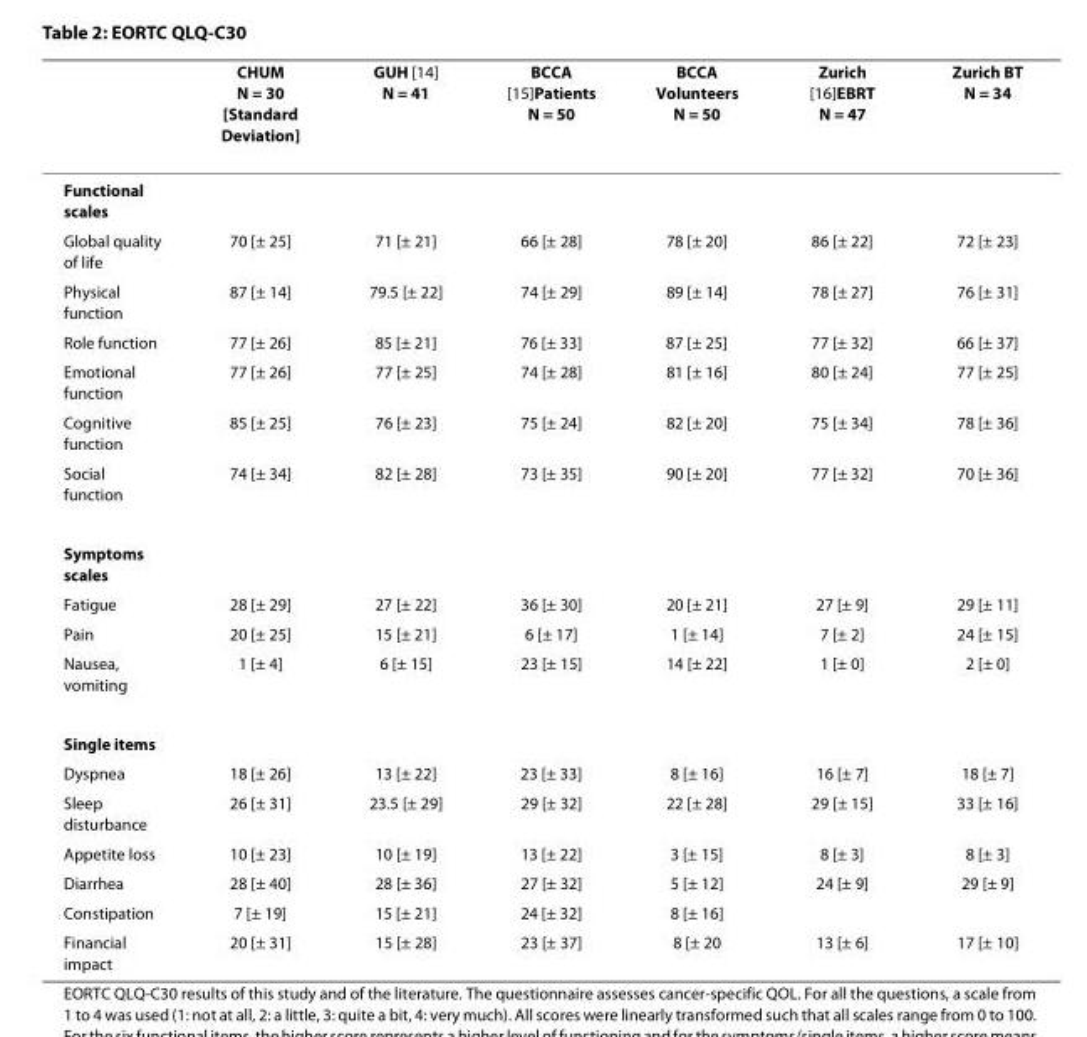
<table><thead><tr><td></td><td>CHUM N = 30 [Standard Deviation]</td><td>GUH [14] N = 41</td><td>BCCA [15]Patients N = 50</td><td>BCCA Volunteers N = 50</td><td>Zurich [16]EBRT N = 47</td><td>Zurich BT N = 34</td></tr></thead><tbody><tr><td colspan="7">Functional scales</td></tr><tr><td>Global quality of life</td><td>70 [± 25]</td><td>71 [± 21]</td><td>66 [± 28]</td><td>78 [± 20]</td><td>86 [± 22]</td><td>72 [± 23]</td></tr><tr><td>Physical function</td><td>87 [± 14]</td><td>79.5 [± 22]</td><td>74 [± 29]</td><td>89 [± 14]</td><td>78 [± 27]</td><td>76 [± 31]</td></tr><tr><td>Role function</td><td>77 [± 26]</td><td>85 [± 21]</td><td>76 [± 33]</td><td>87 [± 25]</td><td>77 [± 32]</td><td>66 [± 37]</td></tr><tr><td>Emotional function</td><td>77 [± 26]</td><td>77 [± 25]</td><td>74 [± 28]</td><td>81 [± 16]</td><td>80 [± 24]</td><td>77 [± 25]</td></tr><tr><td>Cognitive function</td><td>85 [± 25]</td><td>76 [± 23]</td><td>75 [± 24]</td><td>82 [± 20]</td><td>75 [± 34]</td><td>78 [± 36]</td></tr><tr><td>Social function</td><td>74 [± 34]</td><td>82 [± 28]</td><td>73 [± 35]</td><td>90 [± 20]</td><td>77 [± 32]</td><td>70 [± 36]</td></tr><tr><td colspan="7">Symptoms scales</td></tr><tr><td>Fatigue</td><td>28 [± 29]</td><td>27 [± 22]</td><td>36 [± 30]</td><td>20 [± 21]</td><td>27 [± 9]</td><td>29 [± 11]</td></tr><tr><td>Pain</td><td>20 [± 25]</td><td>15 [± 21]</td><td>6 [± 17]</td><td>1 [± 14]</td><td>7 [± 2]</td><td>24 [± 15]</td></tr><tr><td>Nausea, vomiting</td><td>1 [± 4]</td><td>6 [± 15]</td><td>23 [± 15]</td><td>14 [± 22]</td><td>1 [± 0]</td><td>2 [± 0]</td></tr><tr><td colspan="7">Single items</td></tr><tr><td>Dyspnea</td><td>18 [± 26]</td><td>13 [± 22]</td><td>23 [± 33]</td><td>8 [± 16]</td><td>16 [± 7]</td><td>18 [± 7]</td></tr><tr><td>Sleep disturbance</td><td>26 [± 31]</td><td>23.5 [± 29]</td><td>29 [± 32]</td><td>22 [± 28]</td><td>29 [± 15]</td><td>33 [± 16]</td></tr><tr><td>Appetite loss</td><td>10 [± 23]</td><td>10 [± 19]</td><td>13 [± 22]</td><td>3 [± 15]</td><td>8 [± 3]</td><td>8 [± 3]</td></tr><tr><td>Diarrhea</td><td>28 [± 40]</td><td>28 [± 36]</td><td>27 [± 32]</td><td>5 [± 12]</td><td>24 [± 9]</td><td>29 [± 9]</td></tr><tr><td>Constipation</td><td>7 [± 19]</td><td>15 [± 21]</td><td>24 [± 32]</td><td>8 [± 16]</td><td></td><td></td></tr><tr><td>Financial impact</td><td>20 [± 31]</td><td>15 [± 28]</td><td>23 [± 37]</td><td>8 [± 20</td><td>13 [± 6]</td><td>17 [± 10]</td></tr></tbody></table>